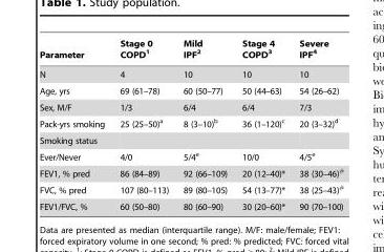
<table><thead><tr><td>Parameter</td><td>Stage 0 COPD<sup>1</sup></td><td>Mild IPF<sup>2</sup></td><td>Stage 4 COPD<sup>3</sup></td><td>Severe IPF<sup>4</sup></td></tr></thead><tbody><tr><td>N</td><td>4</td><td>10</td><td>10</td><td>10</td></tr><tr><td>Age, yrs</td><td>69 (61–78)</td><td>60 (50–77)</td><td>50 (44–63)</td><td>54 (26–62)</td></tr><tr><td>Sex, M/F</td><td>1/3</td><td>6/4</td><td>6/4</td><td>7/3</td></tr><tr><td>Pack-yrs smoking</td><td>25 (25–50)<sup>a</sup></td><td>8 (3–10)<sup>b</sup></td><td>36 (1–120)<sup>c</sup></td><td>20 (3–32)<sup>d</sup></td></tr><tr><td colspan="5">Smoking status</td></tr><tr><td>Ever/Never</td><td>4/0</td><td>5/4<sup>e</sup></td><td>10/0</td><td>4/5<sup>e</sup></td></tr><tr><td>FEV1, % pred</td><td>86 (84–89)</td><td>92 (66–109)</td><td>20 (12–40)*</td><td>38 (30–46)<sup>#</sup></td></tr><tr><td>FVC, % pred</td><td>107 (80–113)</td><td>89 (80–105)</td><td>54 (13–77)*</td><td>38 (25–43)<sup>#</sup></td></tr><tr><td>FEV1/FVC, %</td><td>60 (50–80)</td><td>80 (60–90)</td><td>30 (20–60)*</td><td>90 (70–100)</td></tr></tbody></table>